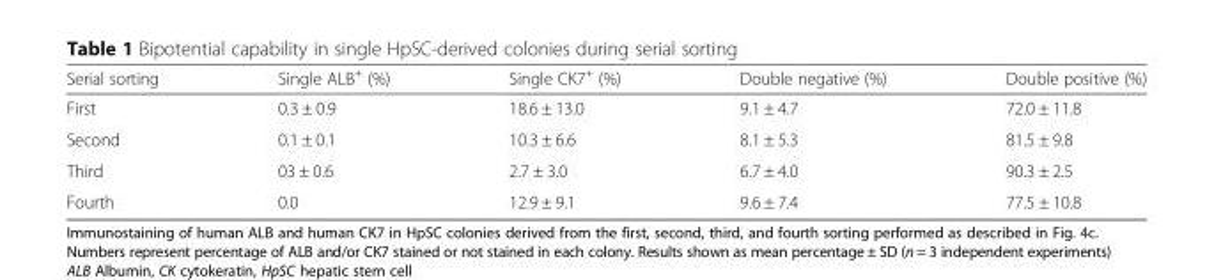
<table><thead><tr><td>Serial sorting</td><td>Single ALB<sup>+</sup> (%)</td><td>Single CK7<sup>+</sup> (%)</td><td>Double negative (%)</td><td>Double positive (%)</td></tr></thead><tbody><tr><td>First</td><td>0.3 ± 0.9</td><td>18.6 ± 13.0</td><td>9.1 ± 4.7</td><td>72.0 ± 11.8</td></tr><tr><td>Second</td><td>0.1 ± 0.1</td><td>10.3 ± 6.6</td><td>8.1 ± 5.3</td><td>81.5 ± 9.8</td></tr><tr><td>Third</td><td>03 ± 0.6</td><td>2.7 ± 3.0</td><td>6.7 ± 4.0</td><td>90.3 ± 2.5</td></tr><tr><td>Fourth</td><td>0.0</td><td>12.9 ± 9.1</td><td>9.6 ± 7.4</td><td>77.5 ± 10.8</td></tr></tbody></table>